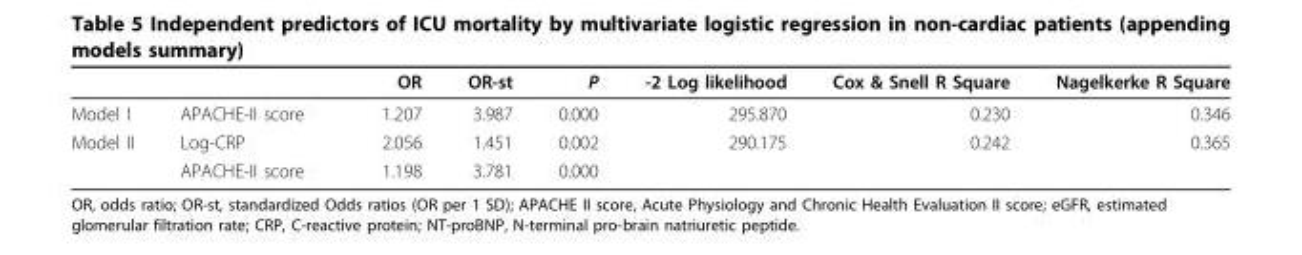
<table><thead><tr><td></td><td></td><td>OR</td><td>OR-st</td><td>P</td><td>-2 Log likelihood</td><td>Cox &amp; Snell R Square</td><td>Nagelkerke R Square</td></tr></thead><tbody><tr><td>Model I</td><td>APACHE-II score</td><td>1.207</td><td>3.987</td><td>0.000</td><td>295.870</td><td>0.230</td><td>0.346</td></tr><tr><td rowspan="2">Model II</td><td>Log-CRP</td><td>2.056</td><td>1.451</td><td>0.002</td><td>290.175</td><td>0.242</td><td>0.365</td></tr><tr><td>APACHE-II score</td><td>1.198</td><td>3.781</td><td>0.000</td><td></td><td></td><td></td></tr></tbody></table>